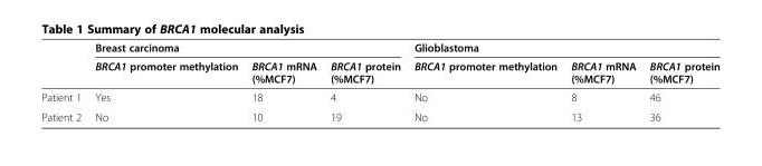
<table><thead><tr><td rowspan="2"></td><td colspan="3">Breast carcinoma</td><td colspan="3">Glioblastoma</td></tr><tr><td>BRCA1 promoter methylation</td><td>BRCA1 mRNA (%MCF7)</td><td>BRCA1 protein (%MCF7)</td><td>BRCA1 promoter methylation</td><td>BRCA1 mRNA (%MCF7)</td><td>BRCA1 protein (%MCF7)</td></tr></thead><tbody><tr><td>Patient 1</td><td>Yes</td><td>18</td><td>4</td><td>No</td><td>8</td><td>46</td></tr><tr><td>Patient 2</td><td>No</td><td>10</td><td>19</td><td>No</td><td>13</td><td>36</td></tr></tbody></table>